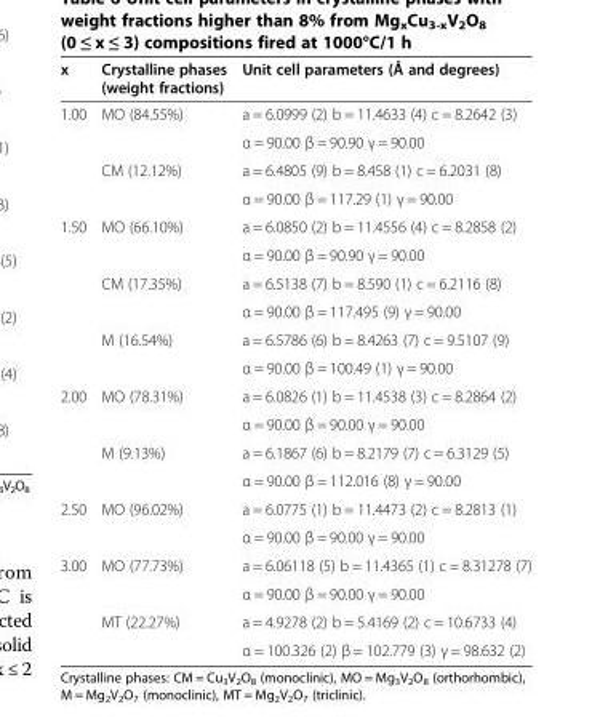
<table><thead><tr><td>x</td><td>Crystalline phases (weight fractions)</td><td>Unit cell parameters (Å and degrees)</td></tr></thead><tbody><tr><td rowspan="4">1.00</td><td rowspan="2">MO (84.55%)</td><td>a = 6.0999 (2) b = 11.4633 (4) c = 8.2642 (3)</td></tr><tr><td>α = 90.00 β = 90.90 γ = 90.00</td></tr><tr><td rowspan="2">CM (12.12%)</td><td>a = 6.4805 (9) b = 8.458 (1) c = 6.2031 (8)</td></tr><tr><td>α = 90.00 β = 117.29 (1) γ = 90.00</td></tr><tr><td rowspan="6">1.50</td><td rowspan="2">MO (66.10%)</td><td>a = 6.0850 (2) b = 11.4556 (4) c = 8.2858 (2)</td></tr><tr><td>α = 90.00 β = 90.90 γ = 90.00</td></tr><tr><td rowspan="2">CM (17.35%)</td><td>a = 6.5138 (7) b = 8.590 (1) c = 6.2116 (8)</td></tr><tr><td>α = 90.00 β = 117.495 (9) γ = 90.00</td></tr><tr><td rowspan="2">M (16.54%)</td><td>a = 6.5786 (6) b = 8.4263 (7) c = 9.5107 (9)</td></tr><tr><td>α = 90.00 β = 100.49 (1) γ = 90.00</td></tr><tr><td rowspan="4">2.00</td><td rowspan="2">MO (78.31%)</td><td>a = 6.0826 (1) b = 11.4538 (3) c = 8.2864 (2)</td></tr><tr><td>α = 90.00 β = 90.00 γ = 90.00</td></tr><tr><td rowspan="2">M (9.13%)</td><td>a = 6.1867 (6) b = 8.2179 (7) c = 6.3129 (5)</td></tr><tr><td>α = 90.00 β = 112.016 (8) γ = 90.00</td></tr><tr><td rowspan="2">2.50</td><td rowspan="2">MO (96.02%)</td><td>a = 6.0775 (1) b = 11.4473 (2) c = 8.2813 (1)</td></tr><tr><td>α = 90.00 β = 90.00 γ = 90.00</td></tr><tr><td rowspan="4">3.00</td><td rowspan="2">MO (77.73%)</td><td>a = 6.06118 (5) b = 11.4365 (1) c = 8.31278 (7)</td></tr><tr><td>α = 90.00 β = 90.00 γ = 90.00</td></tr><tr><td rowspan="2">MT (22.27%)</td><td>a = 4.9278 (2) b = 5.4169 (2) c = 10.6733 (4)</td></tr><tr><td>α = 100.326 (2) β = 102.779 (3) γ = 98.632 (2)</td></tr></tbody></table>